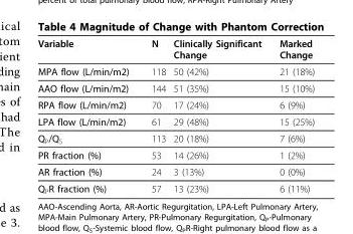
<table><thead><tr><td>Variable</td><td>N</td><td>Clinically Significant Change</td><td>Marked Change</td></tr></thead><tbody><tr><td>MPA flow (L/min/m2)</td><td>118</td><td>50 (42%)</td><td>21 (18%)</td></tr><tr><td>AAO flow (L/min/m2)</td><td>144</td><td>51 (35%)</td><td>15 (10%)</td></tr><tr><td>RPA flow (L/min/m2)</td><td>70</td><td>17 (24%)</td><td>6 (9%)</td></tr><tr><td>LPA flow (L/min/m2)</td><td>61</td><td>29 (48%)</td><td>15 (25%)</td></tr><tr><td>Q<sub>P</sub>/Q<sub>S</sub></td><td>113</td><td>20 (18%)</td><td>7 (6%)</td></tr><tr><td>PR fraction (%)</td><td>53</td><td>14 (26%)</td><td>1 (2%)</td></tr><tr><td>AR fraction (%)</td><td>24</td><td>3 (13%)</td><td>0 (0%)</td></tr><tr><td>Q<sub>P</sub>R fraction (%)</td><td>57</td><td>13 (23%)</td><td>6 (11%)</td></tr></tbody></table>